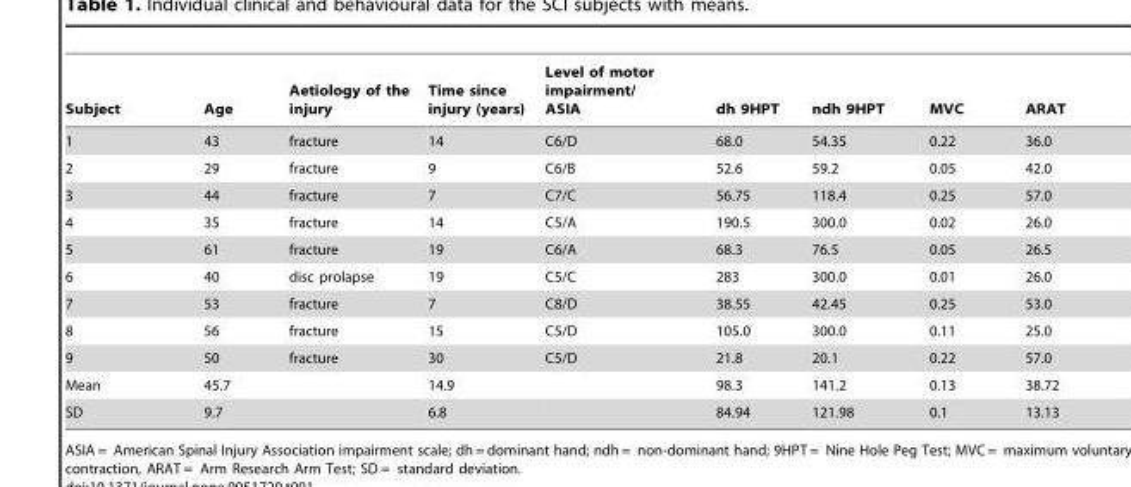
<table><thead><tr><td>Subject</td><td>Age</td><td>Aetiology of the injury</td><td>Time since injury (years)</td><td>Level of motor impairment/ ASIA</td><td>dh 9HPT</td><td>ndh 9HPT</td><td>MVC</td><td>ARAT</td></tr></thead><tbody><tr><td>1</td><td>43</td><td>fracture</td><td>14</td><td>C6/D</td><td>68.0</td><td>54.35</td><td>0.22</td><td>36.0</td></tr><tr><td>2</td><td>29</td><td>fracture</td><td>9</td><td>C6/B</td><td>52.6</td><td>59.2</td><td>0.05</td><td>42.0</td></tr><tr><td>3</td><td>44</td><td>fracture</td><td>7</td><td>C7/C</td><td>56.75</td><td>118.4</td><td>0.25</td><td>57.0</td></tr><tr><td>4</td><td>35</td><td>fracture</td><td>14</td><td>C5/A</td><td>190.5</td><td>300.0</td><td>0.02</td><td>26.0</td></tr><tr><td>5</td><td>61</td><td>fracture</td><td>19</td><td>C6/A</td><td>68.3</td><td>76.5</td><td>0.05</td><td>26.5</td></tr><tr><td>6</td><td>40</td><td>disc prolapse</td><td>19</td><td>C5/C</td><td>283</td><td>300.0</td><td>0.01</td><td>26.0</td></tr><tr><td>7</td><td>53</td><td>fracture</td><td>7</td><td>C8/D</td><td>38.55</td><td>42.45</td><td>0.25</td><td>53.0</td></tr><tr><td>8</td><td>56</td><td>fracture</td><td>15</td><td>C5/D</td><td>105.0</td><td>300.0</td><td>0.11</td><td>25.0</td></tr><tr><td>9</td><td>50</td><td>fracture</td><td>30</td><td>C5/D</td><td>21.8</td><td>20.1</td><td>0.22</td><td>57.0</td></tr><tr><td>Mean</td><td>45.7</td><td></td><td>14.9</td><td></td><td>98.3</td><td>141.2</td><td>0.13</td><td>38.72</td></tr><tr><td>SD</td><td>9.7</td><td></td><td>6.8</td><td></td><td>84.94</td><td>121.98</td><td>0.1</td><td>13.13</td></tr></tbody></table>